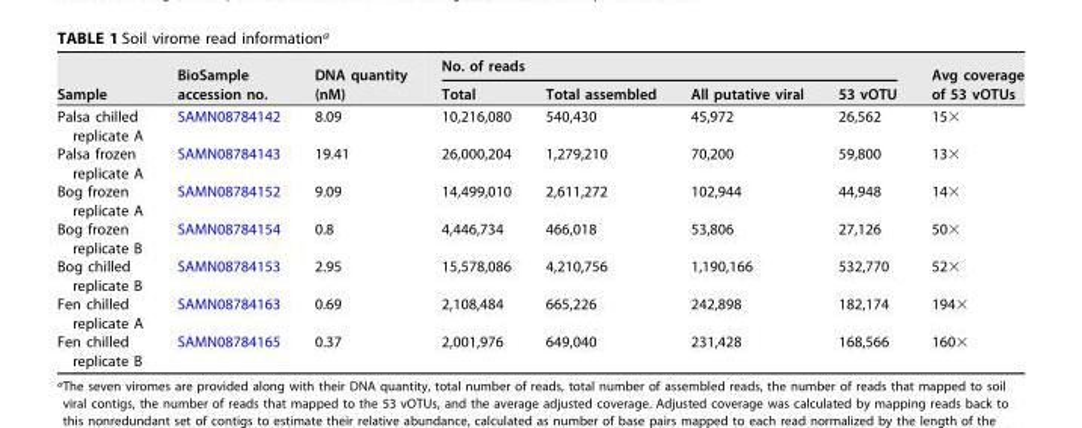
<table><thead><tr><td rowspan="2">Sample</td><td rowspan="2">BioSample accession no.</td><td rowspan="2">DNA quantity (nM)</td><td colspan="4">No. of reads</td><td rowspan="2">Avg coverage of 53 vOTUs</td></tr><tr><td>Total</td><td>Total assembled</td><td>All putative viral</td><td>53 vOTU</td></tr></thead><tbody><tr><td>Palsa chilled replicate A</td><td>SAMN08784142</td><td>8.09</td><td>10,216,080</td><td>540,430</td><td>45,972</td><td>26,562</td><td>15×</td></tr><tr><td>Palsa frozen replicate A</td><td>SAMN08784143</td><td>19.41</td><td>26,000,204</td><td>1,279,210</td><td>70,200</td><td>59,800</td><td>13×</td></tr><tr><td>Bog frozen replicate A</td><td>SAMN08784152</td><td>9.09</td><td>14,499,010</td><td>2,611,272</td><td>102,944</td><td>44,948</td><td>14×</td></tr><tr><td>Bog frozen replicate B</td><td>SAMN08784154</td><td>0.8</td><td>4,446,734</td><td>466,018</td><td>53,806</td><td>27,126</td><td>50×</td></tr><tr><td>Bog chilled replicate B</td><td>SAMN08784153</td><td>2.95</td><td>15,578,086</td><td>4,210,756</td><td>1,190,166</td><td>532,770</td><td>52×</td></tr><tr><td>Fen chilled replicate A</td><td>SAMN08784163</td><td>0.69</td><td>2,108,484</td><td>665,226</td><td>242,898</td><td>182,174</td><td>194×</td></tr><tr><td>Fen chilled replicate B</td><td>SAMN08784165</td><td>0.37</td><td>2,001,976</td><td>649,040</td><td>231,428</td><td>168,566</td><td>160×</td></tr></tbody></table>